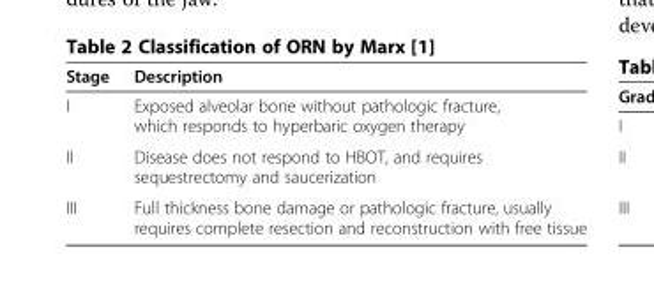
<table><thead><tr><td>Stage</td><td>Description</td></tr></thead><tbody><tr><td>I</td><td>Exposed alveolar bone without pathologic fracture, which responds to hyperbaric oxygen therapy</td></tr><tr><td>II</td><td>Disease does not respond to HBOT, and requires sequestrectomy and saucerization</td></tr><tr><td>III</td><td>Full thickness bone damage or pathologic fracture, usually requires complete resection and reconstruction with free tissue</td></tr></tbody></table>